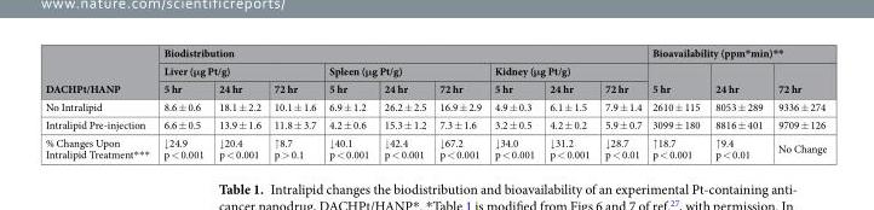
<table><thead><tr><td rowspan="3">DACHPt/HANP</td><td colspan="9">Biodistribution</td><td colspan="3">Bioavailability (ppm*min)**</td></tr><tr><td colspan="3">Liver (μg Pt/g)</td><td colspan="3">Spleen (μg Pt/g)</td><td colspan="3">Kidney (μg Pt/g)</td><td rowspan="2">5 hr</td><td rowspan="2">24 hr</td><td rowspan="2">72 hr</td></tr><tr><td>5 hr</td><td>24 hr</td><td>72 hr</td><td>5 hr</td><td>24 hr</td><td>72 hr</td><td>5 hr</td><td>24 hr</td><td>72 hr</td></tr></thead><tbody><tr><td>No Intralipid</td><td>8.6 ± 0.6</td><td>18.1 ± 2.2</td><td>10.1 ± 1.6</td><td>6.9 ± 1.2</td><td>26.2 ± 2.5</td><td>16.9 ± 2.9</td><td>4.9 ± 0.3</td><td>6.1 ± 1.5</td><td>7.9 ± 1.4</td><td>2610 ± 115</td><td>8053 ± 289</td><td>9336 ± 274</td></tr><tr><td>Intralipid Pre-injection</td><td>6.6 ± 0.5</td><td>13.9 ± 1.6</td><td>11.8 ± 3.7</td><td>4.2 ± 0.6</td><td>15.3 ± 1.2</td><td>7.3 ± 1.6</td><td>3.2 ± 0.5</td><td>4.2 ± 0.2</td><td>5.9 ± 0.7</td><td>3099 ± 180</td><td>8816 ± 401</td><td>9709 ± 126</td></tr><tr><td>% Changes Upon Intralipid Treatment***</td><td>↓24.9 p &lt; 0.001</td><td>↓20.4 p &lt; 0.001</td><td>↑8.7 p &gt; 0.1</td><td>↓40.1 p &lt; 0.001</td><td>↓42.4 p &lt; 0.001</td><td>↓67.2 p &lt; 0.001</td><td>↓34.0 p &lt; 0.001</td><td>↓31.2 p &lt; 0.001</td><td>↓28.7 p &lt; 0.01</td><td>↑18.7 p &lt; 0.001</td><td>↑9.4 p &lt; 0.01</td><td>No Change</td></tr></tbody></table>